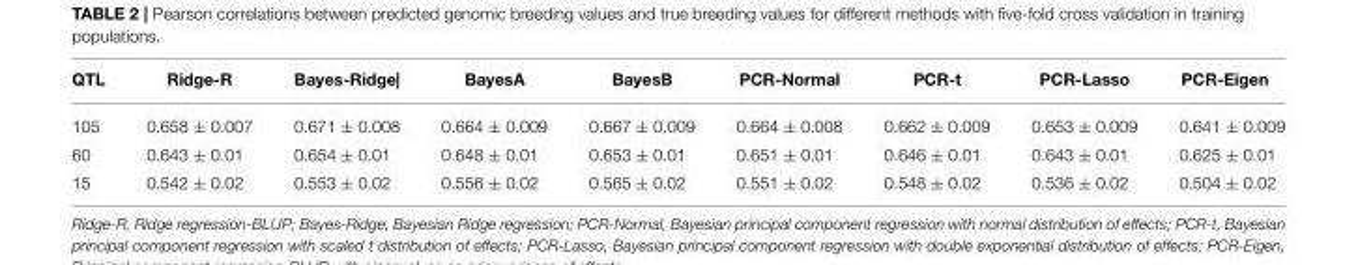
<table><thead><tr><td>QTL</td><td>Ridge-R</td><td>Bayes-Ridge|</td><td>BayesA</td><td>BayesB</td><td>PCR-Normal</td><td>PCR-t</td><td>PCR-Lasso</td><td>PCR-Eigen</td></tr></thead><tbody><tr><td>105</td><td>0.658 ± 0.007</td><td>0.671 ± 0.008</td><td>0.664 ± 0.009</td><td>0.667 ± 0.009</td><td>0.664 ± 0.008</td><td>0.662 ± 0.009</td><td>0.653 ± 0.009</td><td>0.641 ± 0.009</td></tr><tr><td>60</td><td>0.643 ± 0.01</td><td>0.654 ± 0.01</td><td>0.648 ± 0.01</td><td>0.653 ± 0.01</td><td>0.651 ± 0.01</td><td>0.646 ± 0.01</td><td>0.643 ± 0.01</td><td>0.625 ± 0.01</td></tr><tr><td>15</td><td>0.542 ± 0.02</td><td>0.553 ± 0.02</td><td>0.556 ± 0.02</td><td>0.565 ± 0.02</td><td>0.551 ± 0.02</td><td>0.548 ± 0.02</td><td>0.536 ± 0.02</td><td>0.504 ± 0.02</td></tr></tbody></table>